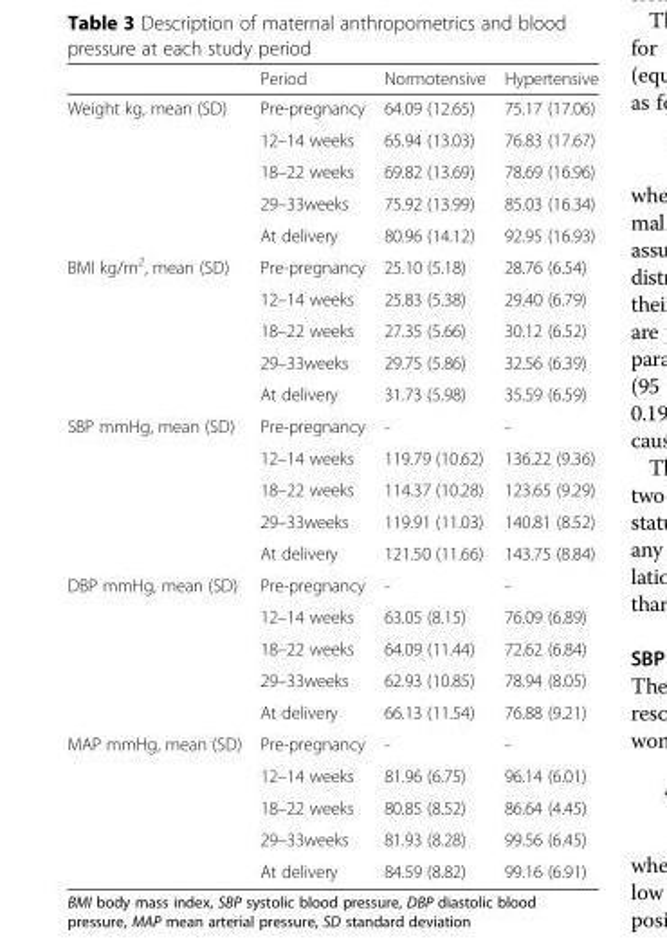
<table><thead><tr><td></td><td>Period</td><td>Normotensive</td><td>Hypertensive</td></tr></thead><tbody><tr><td rowspan="5">Weight kg, mean (SD)</td><td>Pre-pregnancy</td><td>64.09 (12.65)</td><td>75.17 (17.06)</td></tr><tr><td>12–14 weeks</td><td>65.94 (13.03)</td><td>76.83 (17.67)</td></tr><tr><td>18–22 weeks</td><td>69.82 (13.69)</td><td>78.69 (16.96)</td></tr><tr><td>29–33weeks</td><td>75.92 (13.99)</td><td>85.03 (16.34)</td></tr><tr><td>At delivery</td><td>80.96 (14.12)</td><td>92.95 (16.93)</td></tr><tr><td rowspan="5">BMI kg/m<sup>2</sup>, mean (SD)</td><td>Pre-pregnancy</td><td>25.10 (5.18)</td><td>28.76 (6.54)</td></tr><tr><td>12–14 weeks</td><td>25.83 (5.38)</td><td>29.40 (6.79)</td></tr><tr><td>18–22 weeks</td><td>27.35 (5.66)</td><td>30.12 (6.52)</td></tr><tr><td>29–33weeks</td><td>29.75 (5.86)</td><td>32.56 (6.39)</td></tr><tr><td>At delivery</td><td>31.73 (5.98)</td><td>35.59 (6.59)</td></tr><tr><td rowspan="5">SBP mmHg, mean (SD)</td><td>Pre-pregnancy</td><td>-</td><td>-</td></tr><tr><td>12–14 weeks</td><td>119.79 (10.62)</td><td>136.22 (9.36)</td></tr><tr><td>18–22 weeks</td><td>114.37 (10.28)</td><td>123.65 (9.29)</td></tr><tr><td>29–33weeks</td><td>119.91 (11.03)</td><td>140.81 (8.52)</td></tr><tr><td>At delivery</td><td>121.50 (11.66)</td><td>143.75 (8.84)</td></tr><tr><td rowspan="5">DBP mmHg, mean (SD)</td><td>Pre-pregnancy</td><td>-</td><td>-</td></tr><tr><td>12–14 weeks</td><td>63.05 (8.15)</td><td>76.09 (6.89)</td></tr><tr><td>18–22 weeks</td><td>64.09 (11.44)</td><td>72.62 (6.84)</td></tr><tr><td>29–33weeks</td><td>62.93 (10.85)</td><td>78.94 (8.05)</td></tr><tr><td>At delivery</td><td>66.13 (11.54)</td><td>76.88 (9.21)</td></tr><tr><td rowspan="5">MAP mmHg, mean (SD)</td><td>Pre-pregnancy</td><td>-</td><td>-</td></tr><tr><td>12–14 weeks</td><td>81.96 (6.75)</td><td>96.14 (6.01)</td></tr><tr><td>18–22 weeks</td><td>80.85 (8.52)</td><td>86.64 (4.45)</td></tr><tr><td>29–33weeks</td><td>81.93 (8.28)</td><td>99.56 (6.45)</td></tr><tr><td>At delivery</td><td>84.59 (8.82)</td><td>99.16 (6.91)</td></tr></tbody></table>